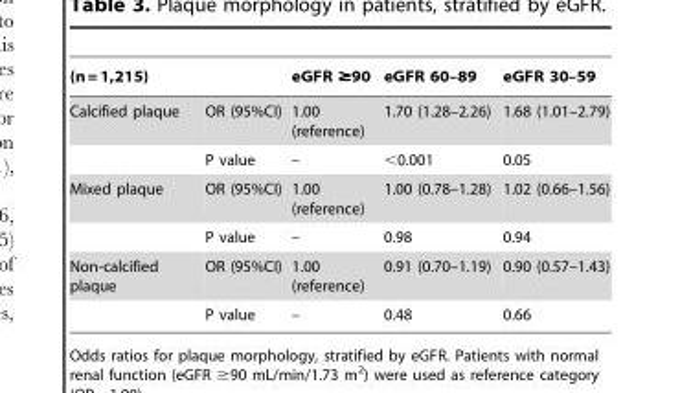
<table><thead><tr><td colspan="2">(n = 1,215)</td><td rowspan="2">eGFR ≥90 1.00 (reference)</td><td rowspan="2">eGFR 60–89 1.70 (1.28–2.26)</td><td rowspan="2">eGFR 30–59 1.68 (1.01–2.79)</td></tr><tr><td>Calcified plaque</td><td>OR (95%CI)</td></tr></thead><tbody><tr><td></td><td>P value</td><td>–</td><td>&lt;0.001</td><td>0.05</td></tr><tr><td rowspan="2">Mixed plaque</td><td>OR (95%CI)</td><td>1.00 (reference)</td><td>1.00 (0.78–1.28)</td><td>1.02 (0.66–1.56)</td></tr><tr><td>P value</td><td>–</td><td>0.98</td><td>0.94</td></tr><tr><td rowspan="2">Non-calcified plaque</td><td>OR (95%CI)</td><td>1.00 (reference)</td><td>0.91 (0.70–1.19)</td><td>0.90 (0.57–1.43)</td></tr><tr><td>P value</td><td>–</td><td>0.48</td><td>0.66</td></tr></tbody></table>